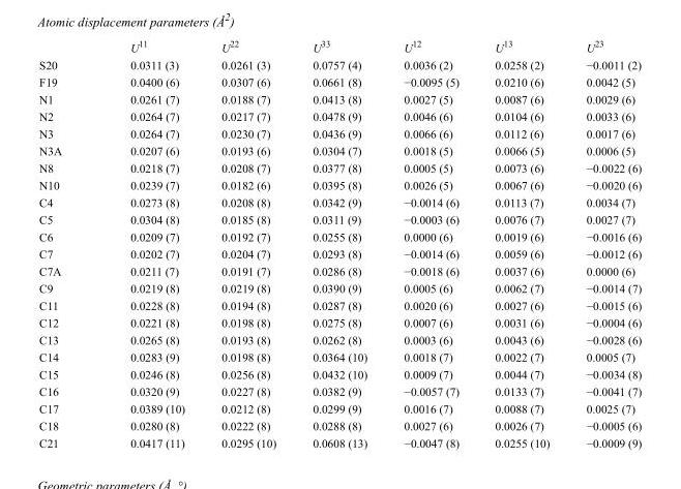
<table><thead><tr><td></td><td>U<sup>11</sup></td><td>U<sup>22</sup></td><td>U<sup>33</sup></td><td>U<sup>12</sup></td><td>U<sup>13</sup></td><td>U<sup>23</sup></td></tr></thead><tbody><tr><td>S20</td><td>0.0311 (3)</td><td>0.0261 (3)</td><td>0.0757 (4)</td><td>0.0036 (2)</td><td>0.0258 (2)</td><td>−0.0011 (2)</td></tr><tr><td>F19</td><td>0.0400 (6)</td><td>0.0307 (6)</td><td>0.0661 (8)</td><td>−0.0095 (5)</td><td>0.0210 (6)</td><td>0.0042 (5)</td></tr><tr><td>N1</td><td>0.0261 (7)</td><td>0.0188 (7)</td><td>0.0413 (8)</td><td>0.0027 (5)</td><td>0.0087 (6)</td><td>0.0029 (6)</td></tr><tr><td>N2</td><td>0.0264 (7)</td><td>0.0217 (7)</td><td>0.0478 (9)</td><td>0.0046 (6)</td><td>0.0104 (6)</td><td>0.0033 (6)</td></tr><tr><td>N3</td><td>0.0264 (7)</td><td>0.0230 (7)</td><td>0.0436 (9)</td><td>0.0066 (6)</td><td>0.0112 (6)</td><td>0.0017 (6)</td></tr><tr><td>N3A</td><td>0.0207 (6)</td><td>0.0193 (6)</td><td>0.0304 (7)</td><td>0.0018 (5)</td><td>0.0066 (5)</td><td>0.0006 (5)</td></tr><tr><td>N8</td><td>0.0218 (7)</td><td>0.0208 (7)</td><td>0.0377 (8)</td><td>0.0005 (5)</td><td>0.0073 (6)</td><td>−0.0022 (6)</td></tr><tr><td>N10</td><td>0.0239 (7)</td><td>0.0182 (6)</td><td>0.0395 (8)</td><td>0.0026 (5)</td><td>0.0067 (6)</td><td>−0.0020 (6)</td></tr><tr><td>C4</td><td>0.0273 (8)</td><td>0.0208 (8)</td><td>0.0342 (9)</td><td>−0.0014 (6)</td><td>0.0113 (7)</td><td>0.0034 (7)</td></tr><tr><td>C5</td><td>0.0304 (8)</td><td>0.0185 (8)</td><td>0.0311 (9)</td><td>−0.0003 (6)</td><td>0.0076 (7)</td><td>0.0027 (7)</td></tr><tr><td>C6</td><td>0.0209 (7)</td><td>0.0192 (7)</td><td>0.0255 (8)</td><td>0.0000 (6)</td><td>0.0019 (6)</td><td>−0.0016 (6)</td></tr><tr><td>C7</td><td>0.0202 (7)</td><td>0.0204 (7)</td><td>0.0293 (8)</td><td>−0.0014 (6)</td><td>0.0059 (6)</td><td>−0.0012 (6)</td></tr><tr><td>C7A</td><td>0.0211 (7)</td><td>0.0191 (7)</td><td>0.0286 (8)</td><td>−0.0018 (6)</td><td>0.0037 (6)</td><td>0.0000 (6)</td></tr><tr><td>C9</td><td>0.0219 (8)</td><td>0.0219 (8)</td><td>0.0390 (9)</td><td>0.0005 (6)</td><td>0.0062 (7)</td><td>−0.0014 (7)</td></tr><tr><td>C11</td><td>0.0228 (8)</td><td>0.0194 (8)</td><td>0.0287 (8)</td><td>0.0020 (6)</td><td>0.0027 (6)</td><td>−0.0015 (6)</td></tr><tr><td>C12</td><td>0.0221 (8)</td><td>0.0198 (8)</td><td>0.0275 (8)</td><td>0.0007 (6)</td><td>0.0031 (6)</td><td>−0.0004 (6)</td></tr><tr><td>C13</td><td>0.0265 (8)</td><td>0.0193 (8)</td><td>0.0262 (8)</td><td>0.0003 (6)</td><td>0.0043 (6)</td><td>−0.0028 (6)</td></tr><tr><td>C14</td><td>0.0283 (9)</td><td>0.0198 (8)</td><td>0.0364 (10)</td><td>0.0018 (7)</td><td>0.0022 (7)</td><td>0.0005 (7)</td></tr><tr><td>C15</td><td>0.0246 (8)</td><td>0.0256 (8)</td><td>0.0432 (10)</td><td>0.0009 (7)</td><td>0.0044 (7)</td><td>−0.0034 (8)</td></tr><tr><td>C16</td><td>0.0320 (9)</td><td>0.0227 (8)</td><td>0.0382 (9)</td><td>−0.0057 (7)</td><td>0.0133 (7)</td><td>−0.0041 (7)</td></tr><tr><td>C17</td><td>0.0389 (10)</td><td>0.0212 (8)</td><td>0.0299 (9)</td><td>0.0016 (7)</td><td>0.0088 (7)</td><td>0.0025 (7)</td></tr><tr><td>C18</td><td>0.0280 (8)</td><td>0.0222 (8)</td><td>0.0288 (8)</td><td>0.0027 (6)</td><td>0.0026 (7)</td><td>−0.0005 (6)</td></tr><tr><td>C21</td><td>0.0417 (11)</td><td>0.0295 (10)</td><td>0.0608 (13)</td><td>−0.0047 (8)</td><td>0.0255 (10)</td><td>−0.0009 (9)</td></tr></tbody></table>